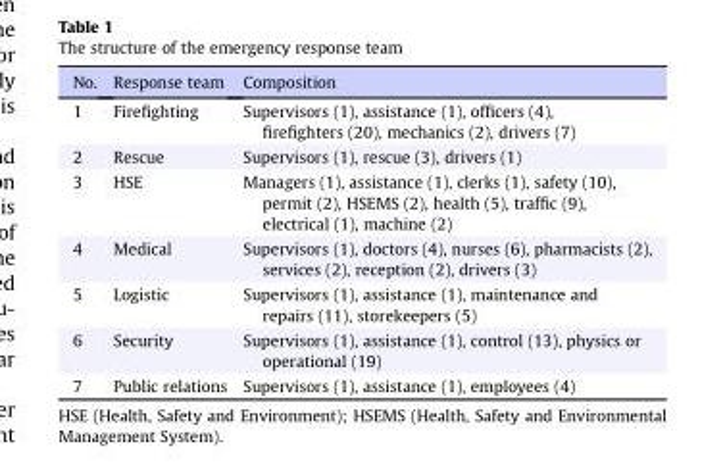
<table><thead><tr><td>No.</td><td>Response team</td><td>Composition</td></tr></thead><tbody><tr><td>1</td><td>Firefighting</td><td>Supervisors (1), assistance (1), officers (4), firefighters (20), mechanics (2), drivers (7)</td></tr><tr><td>2</td><td>Rescue</td><td>Supervisors (1), rescue (3), drivers (1)</td></tr><tr><td>3</td><td>HSE</td><td>Managers (1), assistance (1), clerks (1), safety (10), permit (2), HSEMS (2), health (5), traffic (9), electrical (1), machine (2)</td></tr><tr><td>4</td><td>Medical</td><td>Supervisors (1), doctors (4), nurses (6), pharmacists (2), services (2), reception (2), drivers (3)</td></tr><tr><td>5</td><td>Logistic</td><td>Supervisors (1), assistance (1), maintenance and repairs (11), storekeepers (5)</td></tr><tr><td>6</td><td>Security</td><td>Supervisors (1), assistance (1), control (13), physics or operational (19)</td></tr><tr><td>7</td><td>Public relations</td><td>Supervisors (1), assistance (1), employees (4)</td></tr></tbody></table>